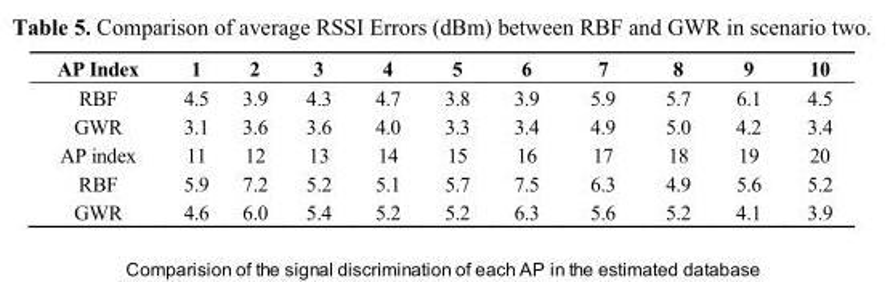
<table><thead><tr><td>AP Index</td><td>1</td><td>2</td><td>3</td><td>4</td><td>5</td><td>6</td><td>7</td><td>8</td><td>9</td><td>10</td></tr></thead><tbody><tr><td>RBF</td><td>4.5</td><td>3.9</td><td>4.3</td><td>4.7</td><td>3.8</td><td>3.9</td><td>5.9</td><td>5.7</td><td>6.1</td><td>4.5</td></tr><tr><td>GWR</td><td>3.1</td><td>3.6</td><td>3.6</td><td>4.0</td><td>3.3</td><td>3.4</td><td>4.9</td><td>5.0</td><td>4.2</td><td>3.4</td></tr><tr><td>AP index</td><td>11</td><td>12</td><td>13</td><td>14</td><td>15</td><td>16</td><td>17</td><td>18</td><td>19</td><td>20</td></tr><tr><td>RBF</td><td>5.9</td><td>7.2</td><td>5.2</td><td>5.1</td><td>5.7</td><td>7.5</td><td>6.3</td><td>4.9</td><td>5.6</td><td>5.2</td></tr><tr><td>GWR</td><td>4.6</td><td>6.0</td><td>5.4</td><td>5.2</td><td>5.2</td><td>6.3</td><td>5.6</td><td>5.2</td><td>4.1</td><td>3.9</td></tr></tbody></table>